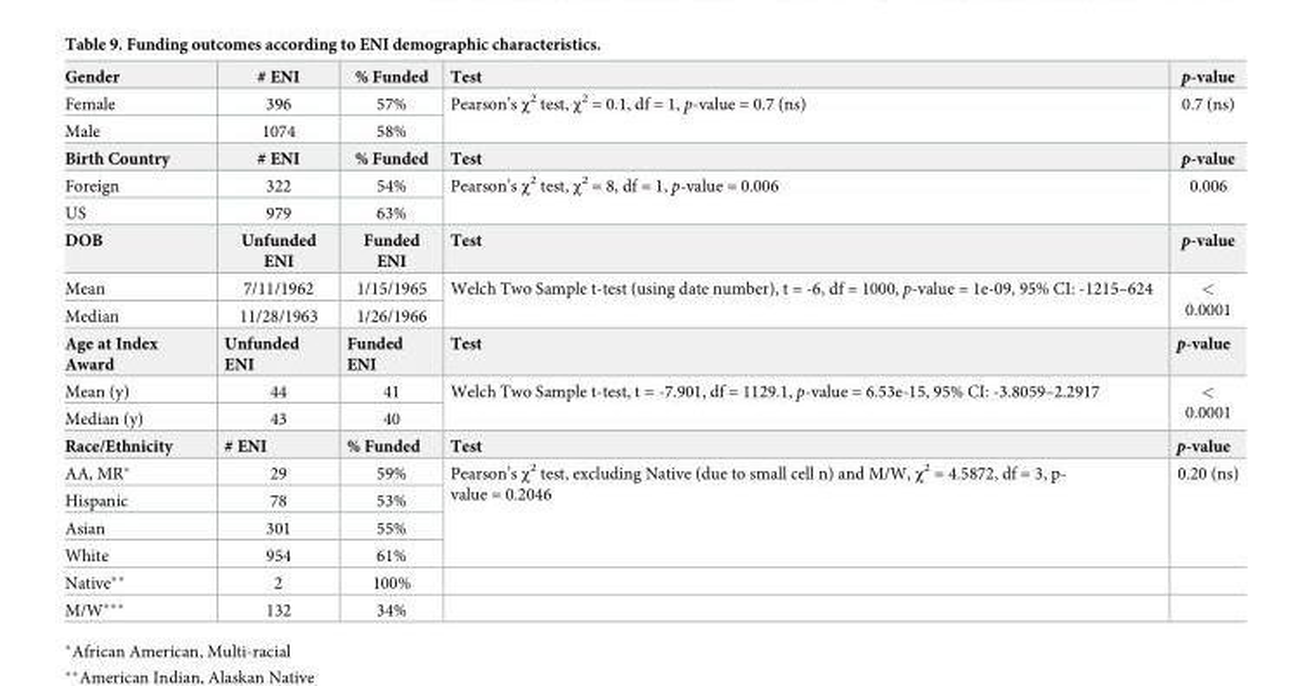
<table><tbody><tr><td>Gender</td><td># ENI</td><td>% Funded</td><td>Test</td><td>p-value</td></tr><tr><td>Female</td><td>396</td><td>57%</td><td rowspan="2">Pearson’s χ<sup>2</sup> test, χ<sup>2</sup> = 0.1, df = 1, p-value = 0.7 (ns)</td><td rowspan="2">0.7 (ns)</td></tr><tr><td>Male</td><td>1074</td><td>58%</td></tr><tr><td>Birth Country</td><td># ENI</td><td>% Funded</td><td>Test</td><td>p-value</td></tr><tr><td>Foreign</td><td>322</td><td>54%</td><td rowspan="2">Pearson’s χ<sup>2</sup> test, χ<sup>2</sup> = 8, df = 1, p-value = 0.006</td><td rowspan="2">0.006</td></tr><tr><td>US</td><td>979</td><td>63%</td></tr><tr><td>DOB</td><td>Unfunded ENI</td><td>Funded ENI</td><td>Test</td><td>p-value</td></tr><tr><td>Mean</td><td>7/11/1962</td><td>1/15/1965</td><td rowspan="2">Welch Two Sample t-test (using date number), t = -6, df = 1000, p-value = 1e-09, 95% CI: -1215–624</td><td rowspan="2">&lt; 0.0001</td></tr><tr><td>Median</td><td>11/28/1963</td><td>1/26/1966</td></tr><tr><td>Age at Index Award</td><td>Unfunded ENI</td><td>Funded ENI</td><td>Test</td><td>p-value</td></tr><tr><td>Mean (y)</td><td>44</td><td>41</td><td rowspan="2">Welch Two Sample t-test, t = -7.901, df = 1129.1, p-value = 6.53e-15, 95% CI: -3.8059–2.2917</td><td rowspan="2">&lt; 0.0001</td></tr><tr><td>Median (y)</td><td>43</td><td>40</td></tr><tr><td>Race/Ethnicity</td><td># ENI</td><td>% Funded</td><td>Test</td><td>p-value</td></tr><tr><td>AA, MR*</td><td>29</td><td>59%</td><td rowspan="4">Pearson’s χ<sup>2</sup> test, excluding Native (due to small cell n) and M/W, χ<sup>2</sup> = 4.5872, df = 3, p- value = 0.2046</td><td rowspan="4">0.20 (ns)</td></tr><tr><td>Hispanic</td><td>78</td><td>53%</td></tr><tr><td>Asian</td><td>301</td><td>55%</td></tr><tr><td>White</td><td>954</td><td>61%</td></tr><tr><td>Native**</td><td>2</td><td>100%</td><td></td><td></td></tr><tr><td>M/W***</td><td>132</td><td>34%</td><td></td><td></td></tr></tbody></table>